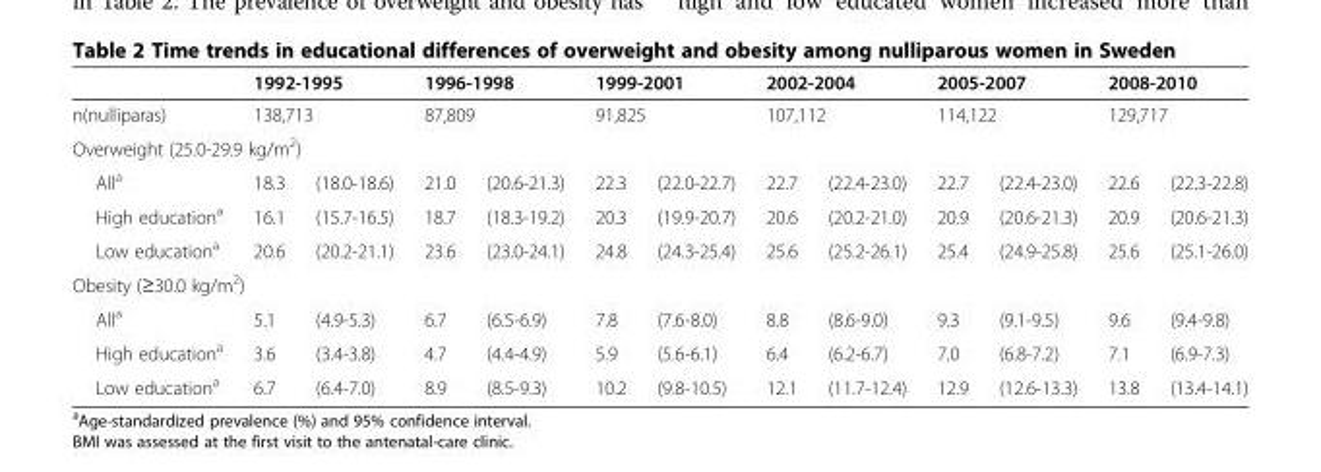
<table><thead><tr><td rowspan="2">n(nulliparas)</td><td rowspan="2" colspan="2">1992-1995 138,713</td><td rowspan="2" colspan="2">1996-1998 87,809</td><td rowspan="2" colspan="2">1999-2001 91,825</td><td rowspan="2" colspan="2">2002-2004 107,112</td><td rowspan="2" colspan="2">2005-2007 114,122</td><td rowspan="2" colspan="2">2008-2010 129,717</td></tr><tr></tr><tr><td colspan="13">Overweight (25.0-29.9 kg/m<sup>2</sup>)</td></tr><tr><td>All<sup>a</sup></td><td>18.3</td><td>(18.0-18.6)</td><td>21.0</td><td>(20.6-21.3)</td><td>22.3</td><td>(22.0-22.7)</td><td>22.7</td><td>(22.4-23.0)</td><td>22.7</td><td>(22.4-23.0)</td><td>22.6</td><td>(22.3-22.8)</td></tr></thead><tbody><tr><td>High education<sup>a</sup></td><td>16.1</td><td>(15.7-16.5)</td><td>18.7</td><td>(18.3-19.2)</td><td>20.3</td><td>(19.9-20.7)</td><td>20.6</td><td>(20.2-21.0)</td><td>20.9</td><td>(20.6-21.3)</td><td>20.9</td><td>(20.6-21.3)</td></tr><tr><td>Low education<sup>a</sup></td><td>20.6</td><td>(20.2-21.1)</td><td>23.6</td><td>(23.0-24.1)</td><td>24.8</td><td>(24.3-25.4)</td><td>25.6</td><td>(25.2-26.1)</td><td>25.4</td><td>(24.9-25.8)</td><td>25.6</td><td>(25.1-26.0)</td></tr><tr><td colspan="13">Obesity (≥30.0 kg/m<sup>2</sup>)</td></tr><tr><td>All<sup>a</sup></td><td>5.1</td><td>(4.9-5.3)</td><td>6.7</td><td>(6.5-6.9)</td><td>7.8</td><td>(7.6-8.0)</td><td>8.8</td><td>(8.6-9.0)</td><td>9.3</td><td>(9.1-9.5)</td><td>9.6</td><td>(9.4-9.8)</td></tr><tr><td>High education<sup>a</sup></td><td>3.6</td><td>(3.4-3.8)</td><td>4.7</td><td>(4.4-4.9)</td><td>5.9</td><td>(5.6-6.1)</td><td>6.4</td><td>(6.2-6.7)</td><td>7.0</td><td>(6.8-7.2)</td><td>7.1</td><td>(6.9-7.3)</td></tr><tr><td>Low education<sup>a</sup></td><td>6.7</td><td>(6.4-7.0)</td><td>8.9</td><td>(8.5-9.3)</td><td>10.2</td><td>(9.8-10.5)</td><td>12.1</td><td>(11.7-12.4)</td><td>12.9</td><td>(12.6-13.3)</td><td>13.8</td><td>(13.4-14.1)</td></tr></tbody></table>